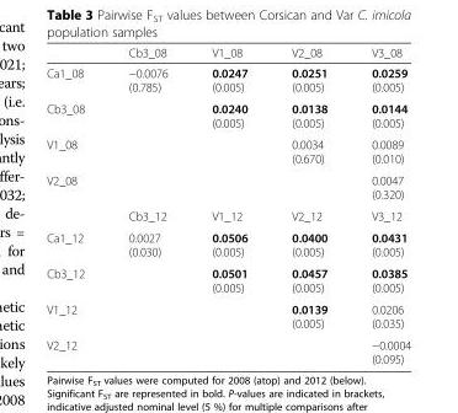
<table><thead><tr><td></td><td>Cb3_08</td><td>V1_08</td><td>V2_08</td><td>V3_08</td></tr></thead><tbody><tr><td>Ca1_08</td><td>−0.0076 (0.785)</td><td>0.0247 (0.005)</td><td>0.0251 (0.005)</td><td>0.0259 (0.005)</td></tr><tr><td>Cb3_08</td><td></td><td>0.0240 (0.005)</td><td>0.0138 (0.005)</td><td>0.0144 (0.005)</td></tr><tr><td>V1_08</td><td></td><td></td><td>0.0034 (0.670)</td><td>0.0089 (0.010)</td></tr><tr><td rowspan="2">V2_08</td><td></td><td></td><td></td><td>0.0047 (0.320)</td></tr><tr><td>Cb3_12</td><td>V1_12</td><td>V2_12</td><td>V3_12</td></tr><tr><td>Ca1_12</td><td>0.0027 (0.030)</td><td>0.0506 (0.005)</td><td>0.0400 (0.005)</td><td>0.0431 (0.005)</td></tr><tr><td>Cb3_12</td><td></td><td>0.0501 (0.005)</td><td>0.0457 (0.005)</td><td>0.0385 (0.005)</td></tr><tr><td>V1_12</td><td></td><td></td><td>0.0139 (0.005)</td><td>0.0206 (0.035)</td></tr><tr><td>V2_12</td><td></td><td></td><td></td><td>−0.0004 (0.095)</td></tr></tbody></table>